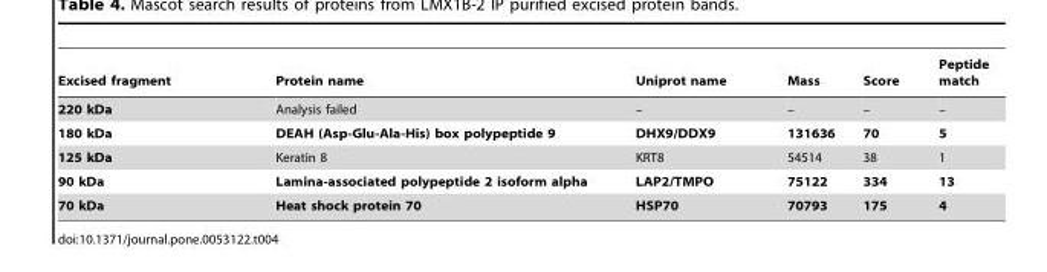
<table><thead><tr><td>Excised fragment</td><td>Protein name</td><td>Uniprot name</td><td>Mass</td><td>Score</td><td>Peptide match</td></tr></thead><tbody><tr><td>220 kDa</td><td>Analysis failed</td><td>–</td><td>–</td><td>–</td><td>–</td></tr><tr><td>180 kDa</td><td>DEAH (Asp-Glu-Ala-His) box polypeptide 9</td><td>DHX9/DDX9</td><td>131636</td><td>70</td><td>5</td></tr><tr><td>125 kDa</td><td>Keratin 8</td><td>KRT8</td><td>54514</td><td>38</td><td>1</td></tr><tr><td>90 kDa</td><td>Lamina-associated polypeptide 2 isoform alpha</td><td>LAP2/TMPO</td><td>75122</td><td>334</td><td>13</td></tr><tr><td>70 kDa</td><td>Heat shock protein 70</td><td>HSP70</td><td>70793</td><td>175</td><td>4</td></tr></tbody></table>